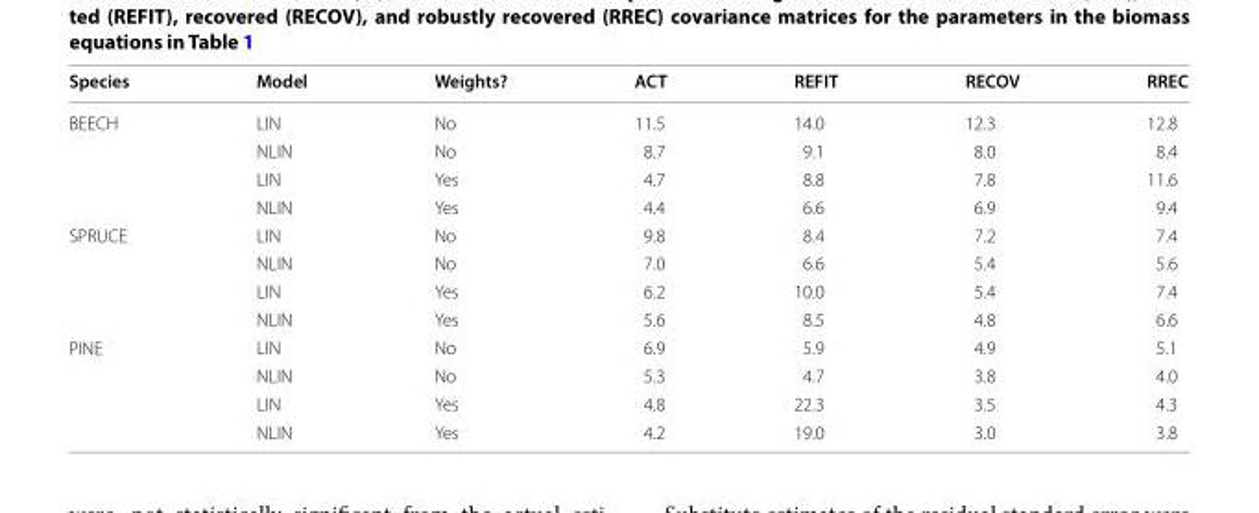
<table><thead><tr><td>Species</td><td>Model</td><td>Weights?</td><td>ACT</td><td>REFIT</td><td>RECOV</td><td>RREC</td></tr></thead><tbody><tr><td rowspan="4">BEECH</td><td>LIN</td><td>No</td><td>11.5</td><td>14.0</td><td>12.3</td><td>12.8</td></tr><tr><td>NLIN</td><td>No</td><td>8.7</td><td>9.1</td><td>8.0</td><td>8.4</td></tr><tr><td>LIN</td><td>Yes</td><td>4.7</td><td>8.8</td><td>7.8</td><td>11.6</td></tr><tr><td>NLIN</td><td>Yes</td><td>4.4</td><td>6.6</td><td>6.9</td><td>9.4</td></tr><tr><td rowspan="4">SPRUCE</td><td>LIN</td><td>No</td><td>9.8</td><td>8.4</td><td>7.2</td><td>7.4</td></tr><tr><td>NLIN</td><td>No</td><td>7.0</td><td>6.6</td><td>5.4</td><td>5.6</td></tr><tr><td>LIN</td><td>Yes</td><td>6.2</td><td>10.0</td><td>5.4</td><td>7.4</td></tr><tr><td>NLIN</td><td>Yes</td><td>5.6</td><td>8.5</td><td>4.8</td><td>6.6</td></tr><tr><td rowspan="4">PINE</td><td>LIN</td><td>No</td><td>6.9</td><td>5.9</td><td>4.9</td><td>5.1</td></tr><tr><td>NLIN</td><td>No</td><td>5.3</td><td>4.7</td><td>3.8</td><td>4.0</td></tr><tr><td>LIN</td><td>Yes</td><td>4.8</td><td>22.3</td><td>3.5</td><td>4.3</td></tr><tr><td>NLIN</td><td>Yes</td><td>4.2</td><td>19.0</td><td>3.0</td><td>3.8</td></tr></tbody></table>